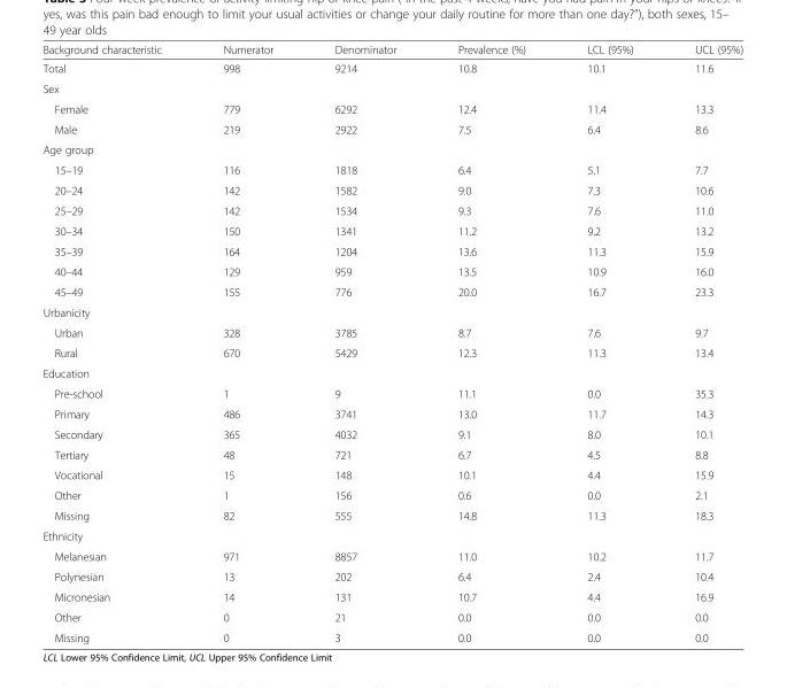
<table><thead><tr><td>Background characteristic</td><td>Numerator</td><td>Denominator</td><td>Prevalence (%)</td><td>LCL (95%)</td><td>UCL (95%)</td></tr></thead><tbody><tr><td>Total</td><td>998</td><td>9214</td><td>10.8</td><td>10.1</td><td>11.6</td></tr><tr><td colspan="6">Sex</td></tr><tr><td>Female</td><td>779</td><td>6292</td><td>12.4</td><td>11.4</td><td>13.3</td></tr><tr><td>Male</td><td>219</td><td>2922</td><td>7.5</td><td>6.4</td><td>8.6</td></tr><tr><td colspan="6">Age group</td></tr><tr><td>15–19</td><td>116</td><td>1818</td><td>6.4</td><td>5.1</td><td>7.7</td></tr><tr><td>20–24</td><td>142</td><td>1582</td><td>9.0</td><td>7.3</td><td>10.6</td></tr><tr><td>25–29</td><td>142</td><td>1534</td><td>9.3</td><td>7.6</td><td>11.0</td></tr><tr><td>30–34</td><td>150</td><td>1341</td><td>11.2</td><td>9.2</td><td>13.2</td></tr><tr><td>35–39</td><td>164</td><td>1204</td><td>13.6</td><td>11.3</td><td>15.9</td></tr><tr><td>40–44</td><td>129</td><td>959</td><td>13.5</td><td>10.9</td><td>16.0</td></tr><tr><td>45–49</td><td>155</td><td>776</td><td>20.0</td><td>16.7</td><td>23.3</td></tr><tr><td colspan="6">Urbanicity</td></tr><tr><td>Urban</td><td>328</td><td>3785</td><td>8.7</td><td>7.6</td><td>9.7</td></tr><tr><td>Rural</td><td>670</td><td>5429</td><td>12.3</td><td>11.3</td><td>13.4</td></tr><tr><td colspan="6">Education</td></tr><tr><td>Pre-school</td><td>1</td><td>9</td><td>11.1</td><td>0.0</td><td>35.3</td></tr><tr><td>Primary</td><td>486</td><td>3741</td><td>13.0</td><td>11.7</td><td>14.3</td></tr><tr><td>Secondary</td><td>365</td><td>4032</td><td>9.1</td><td>8.0</td><td>10.1</td></tr><tr><td>Tertiary</td><td>48</td><td>721</td><td>6.7</td><td>4.5</td><td>8.8</td></tr><tr><td>Vocational</td><td>15</td><td>148</td><td>10.1</td><td>4.4</td><td>15.9</td></tr><tr><td>Other</td><td>1</td><td>156</td><td>0.6</td><td>0.0</td><td>2.1</td></tr><tr><td>Missing</td><td>82</td><td>555</td><td>14.8</td><td>11.3</td><td>18.3</td></tr><tr><td colspan="6">Ethnicity</td></tr><tr><td>Melanesian</td><td>971</td><td>8857</td><td>11.0</td><td>10.2</td><td>11.7</td></tr><tr><td>Polynesian</td><td>13</td><td>202</td><td>6.4</td><td>2.4</td><td>10.4</td></tr><tr><td>Micronesian</td><td>14</td><td>131</td><td>10.7</td><td>4.4</td><td>16.9</td></tr><tr><td>Other</td><td>0</td><td>21</td><td>0.0</td><td>0.0</td><td>0.0</td></tr><tr><td>Missing</td><td>0</td><td>3</td><td>0.0</td><td>0.0</td><td>0.0</td></tr></tbody></table>